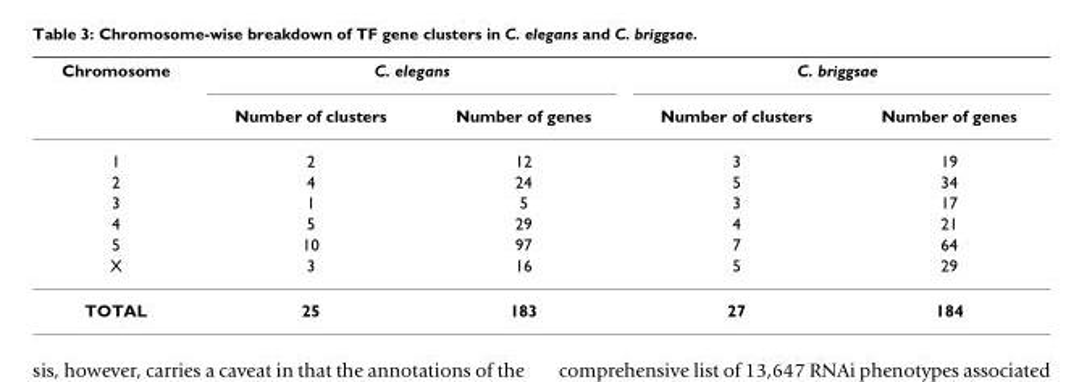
<table><thead><tr><td rowspan="2">Chromosome</td><td colspan="2">C. elegans</td><td colspan="2">C. briggsae</td></tr><tr><td>Number of clusters</td><td>Number of genes</td><td>Number of clusters</td><td>Number of genes</td></tr></thead><tbody><tr><td>1</td><td>2</td><td>12</td><td>3</td><td>19</td></tr><tr><td>2</td><td>4</td><td>24</td><td>5</td><td>34</td></tr><tr><td>3</td><td>1</td><td>5</td><td>3</td><td>17</td></tr><tr><td>4</td><td>5</td><td>29</td><td>4</td><td>21</td></tr><tr><td>5</td><td>10</td><td>97</td><td>7</td><td>64</td></tr><tr><td>X</td><td>3</td><td>16</td><td>5</td><td>29</td></tr><tr><td>TOTAL</td><td>25</td><td>183</td><td>27</td><td>184</td></tr></tbody></table>